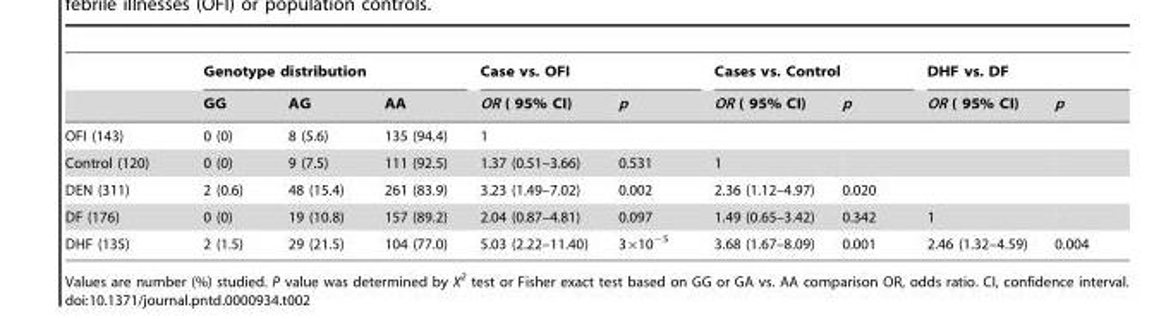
<table><thead><tr><td rowspan="2"></td><td colspan="3">Genotype distribution</td><td colspan="2">Case vs. OFI</td><td colspan="2">Cases vs. Control</td><td colspan="2">DHF vs. DF</td></tr><tr><td>GG</td><td>AG</td><td>AA</td><td>OR ( 95% CI)</td><td>p</td><td>OR ( 95% CI)</td><td>p</td><td>OR ( 95% CI)</td><td>p</td></tr></thead><tbody><tr><td>OFI (143)</td><td>0 (0)</td><td>8 (5.6)</td><td>135 (94.4)</td><td>1</td><td></td><td></td><td></td><td></td><td></td></tr><tr><td>Control (120)</td><td>0 (0)</td><td>9 (7.5)</td><td>111 (92.5)</td><td>1.37 (0.51–3.66)</td><td>0.531</td><td>1</td><td></td><td></td><td></td></tr><tr><td>DEN (311)</td><td>2 (0.6)</td><td>48 (15.4)</td><td>261 (83.9)</td><td>3.23 (1.49–7.02)</td><td>0.002</td><td>2.36 (1.12–4.97)</td><td>0.020</td><td></td><td></td></tr><tr><td>DF (176)</td><td>0 (0)</td><td>19 (10.8)</td><td>157 (89.2)</td><td>2.04 (0.87–4.81)</td><td>0.097</td><td>1.49 (0.65–3.42)</td><td>0.342</td><td>1</td><td></td></tr><tr><td>DHF (135)</td><td>2 (1.5)</td><td>29 (21.5)</td><td>104 (77.0)</td><td>5.03 (2.22–11.40)</td><td>3×10<sup>−5</sup></td><td>3.68 (1.67–8.09)</td><td>0.001</td><td>2.46 (1.32–4.59)</td><td>0.004</td></tr></tbody></table>